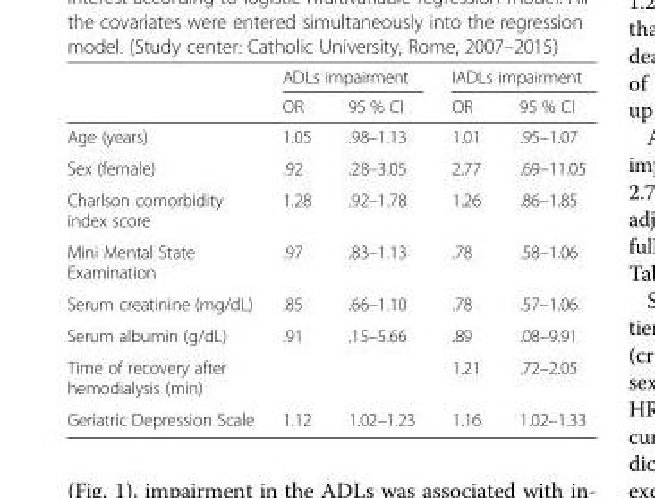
<table><thead><tr><td rowspan="2"></td><td colspan="2">ADLs impairment</td><td colspan="2">IADLs impairment</td></tr><tr><td>OR</td><td>95 % CI</td><td>OR</td><td>95 % CI</td></tr></thead><tbody><tr><td>Age (years)</td><td>1.05</td><td>.98–1.13</td><td>1.01</td><td>.95–1.07</td></tr><tr><td>Sex (female)</td><td>.92</td><td>.28–3.05</td><td>2.77</td><td>.69–11.05</td></tr><tr><td>Charlson comorbidity index score</td><td>1.28</td><td>.92–1.78</td><td>1.26</td><td>.86–1.85</td></tr><tr><td>Mini Mental State Examination</td><td>.97</td><td>.83–1.13</td><td>.78</td><td>.58–1.06</td></tr><tr><td>Serum creatinine (mg/dL)</td><td>.85</td><td>.66–1.10</td><td>.78</td><td>.57–1.06</td></tr><tr><td>Serum albumin (g/dL)</td><td>.91</td><td>.15–5.66</td><td>.89</td><td>.08–9.91</td></tr><tr><td>Time of recovery after hemodialysis (min)</td><td></td><td></td><td>1.21</td><td>.72–2.05</td></tr><tr><td>Geriatric Depression Scale</td><td>1.12</td><td>1.02–1.23</td><td>1.16</td><td>1.02–1.33</td></tr></tbody></table>